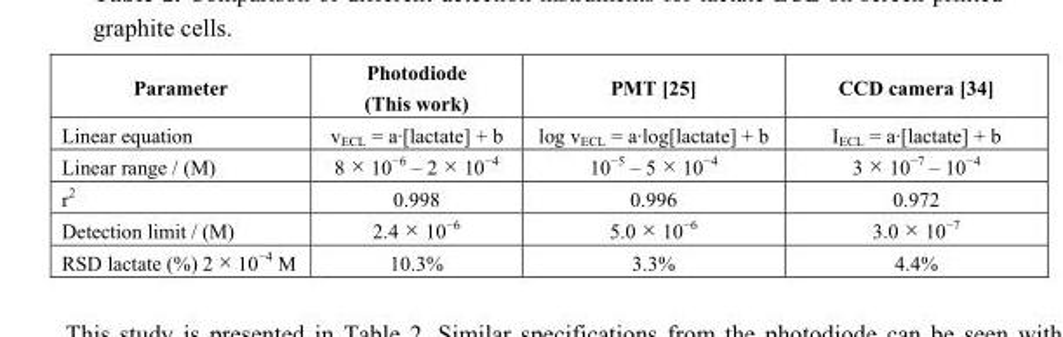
<table><thead><tr><td>Parameter</td><td>Photodiode (This work)</td><td>PMT [25]</td><td>CCD camera [34]</td></tr></thead><tbody><tr><td>Linear equation</td><td>v<sub>ECL</sub> = a·[lactate] + b</td><td>log v<sub>ECL</sub> = a·log[lactate] + b</td><td>I<sub>ECL</sub> = a·[lactate] + b</td></tr><tr><td>Linear range / (M)</td><td>8 × 10<sup>−6</sup> – 2 × 10<sup>−4</sup></td><td>10<sup>−5</sup> – 5 × 10<sup>−4</sup></td><td>3 × 10<sup>−7</sup> – 10<sup>−4</sup></td></tr><tr><td>r<sup>2</sup></td><td>0.998</td><td>0.996</td><td>0.972</td></tr><tr><td>Detection limit / (M)</td><td>2.4 × 10<sup>−6</sup></td><td>5.0 × 10<sup>−6</sup></td><td>3.0 × 10<sup>−7</sup></td></tr><tr><td>RSD lactate (%) 2 × 10<sup>−4</sup> M</td><td>10.3%</td><td>3.3%</td><td>4.4%</td></tr></tbody></table>